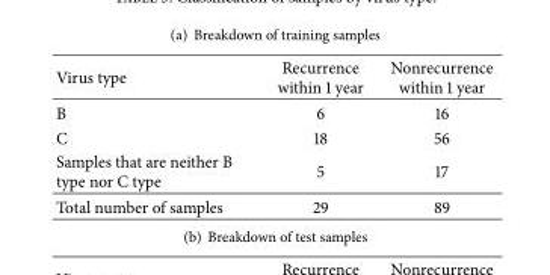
<table><thead><tr><td>Virus type</td><td>Recurrence within 1 year</td><td>Nonrecurrence within 1 year</td></tr></thead><tbody><tr><td>B</td><td>6</td><td>16</td></tr><tr><td>C</td><td>18</td><td>56</td></tr><tr><td>Samples that are neither B type nor C type</td><td>5</td><td>17</td></tr><tr><td>Total number of samples</td><td>29</td><td>89</td></tr></tbody></table>